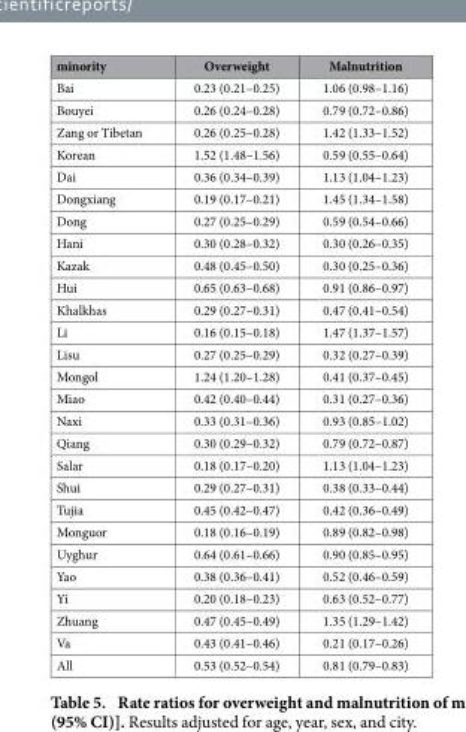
<table><thead><tr><td>minority</td><td>Overweight</td><td>Malnutrition</td></tr></thead><tbody><tr><td>Bai</td><td>0.23 (0.21–0.25)</td><td>1.06 (0.98–1.16)</td></tr><tr><td>Bouyei</td><td>0.26 (0.24–0.28)</td><td>0.79 (0.72–0.86)</td></tr><tr><td>Zang or Tibetan</td><td>0.26 (0.25–0.28)</td><td>1.42 (1.33–1.52)</td></tr><tr><td>Korean</td><td>1.52 (1.48–1.56)</td><td>0.59 (0.55–0.64)</td></tr><tr><td>Dai</td><td>0.36 (0.34–0.39)</td><td>1.13 (1.04–1.23)</td></tr><tr><td>Dongxiang</td><td>0.19 (0.17–0.21)</td><td>1.45 (1.34–1.58)</td></tr><tr><td>Dong</td><td>0.27 (0.25–0.29)</td><td>0.59 (0.54–0.66)</td></tr><tr><td>Hani</td><td>0.30 (0.28–0.32)</td><td>0.30 (0.26–0.35)</td></tr><tr><td>Kazak</td><td>0.48 (0.45–0.50)</td><td>0.30 (0.25–0.36)</td></tr><tr><td>Hui</td><td>0.65 (0.63–0.68)</td><td>0.91 (0.86–0.97)</td></tr><tr><td>Khalkhas</td><td>0.29 (0.27–0.31)</td><td>0.47 (0.41–0.54)</td></tr><tr><td>Li</td><td>0.16 (0.15–0.18)</td><td>1.47 (1.37–1.57)</td></tr><tr><td>Lisu</td><td>0.27 (0.25–0.29)</td><td>0.32 (0.27–0.39)</td></tr><tr><td>Mongol</td><td>1.24 (1.20–1.28)</td><td>0.41 (0.37–0.45)</td></tr><tr><td>Miao</td><td>0.42 (0.40–0.44)</td><td>0.31 (0.27–0.36)</td></tr><tr><td>Naxi</td><td>0.33 (0.31–0.36)</td><td>0.93 (0.85–1.02)</td></tr><tr><td>Qiang</td><td>0.30 (0.29–0.32)</td><td>0.79 (0.72–0.87)</td></tr><tr><td>Salar</td><td>0.18 (0.17–0.20)</td><td>1.13 (1.04–1.23)</td></tr><tr><td>Shui</td><td>0.29 (0.27–0.31)</td><td>0.38 (0.33–0.44)</td></tr><tr><td>Tujia</td><td>0.45 (0.42–0.47)</td><td>0.42 (0.36–0.49)</td></tr><tr><td>Monguor</td><td>0.18 (0.16–0.19)</td><td>0.89 (0.82–0.98)</td></tr><tr><td>Uyghur</td><td>0.64 (0.61–0.66)</td><td>0.90 (0.85–0.95)</td></tr><tr><td>Yao</td><td>0.38 (0.36–0.41)</td><td>0.52 (0.46–0.59)</td></tr><tr><td>Yi</td><td>0.20 (0.18–0.23)</td><td>0.63 (0.52–0.77)</td></tr><tr><td>Zhuang</td><td>0.47 (0.45–0.49)</td><td>1.35 (1.29–1.42)</td></tr><tr><td>Va</td><td>0.43 (0.41–0.46)</td><td>0.21 (0.17–0.26)</td></tr><tr><td>All</td><td>0.53 (0.52–0.54)</td><td>0.81 (0.79–0.83)</td></tr></tbody></table>